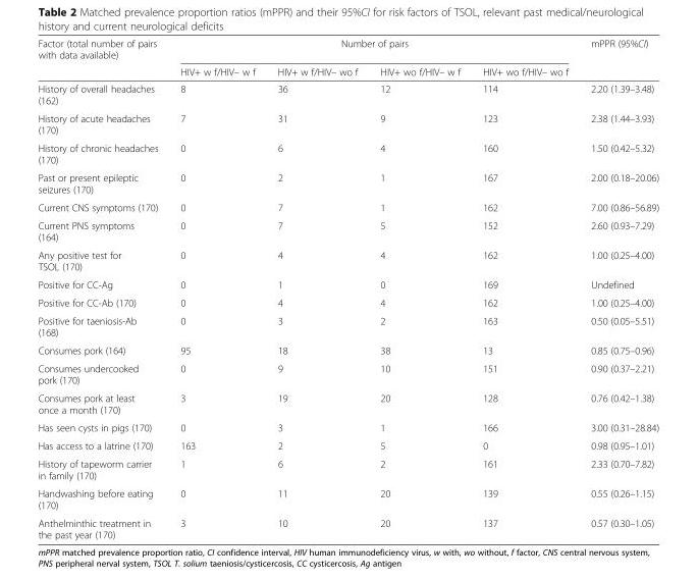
<table><thead><tr><td rowspan="2">Factor (total number of pairs with data available)</td><td colspan="4">Number of pairs</td><td rowspan="2">mPPR (95%CI)</td></tr><tr><td>HIV+ w f/HIV– w f</td><td>HIV+ w f/HIV– wo f</td><td>HIV+ wo f/HIV– w f</td><td>HIV+ wo f/HIV– wo f</td></tr></thead><tbody><tr><td>History of overall headaches (162)</td><td>8</td><td>36</td><td>12</td><td>114</td><td>2.20 (1.39–3.48)</td></tr><tr><td>History of acute headaches (170)</td><td>7</td><td>31</td><td>9</td><td>123</td><td>2.38 (1.44–3.93)</td></tr><tr><td>History of chronic headaches (170)</td><td>0</td><td>6</td><td>4</td><td>160</td><td>1.50 (0.42–5.32)</td></tr><tr><td>Past or present epileptic seizures (170)</td><td>0</td><td>2</td><td>1</td><td>167</td><td>2.00 (0.18–20.06)</td></tr><tr><td>Current CNS symptoms (170)</td><td>0</td><td>7</td><td>1</td><td>162</td><td>7.00 (0.86–56.89)</td></tr><tr><td>Current PNS symptoms (164)</td><td>0</td><td>7</td><td>5</td><td>152</td><td>2.60 (0.93–7.29)</td></tr><tr><td>Any positive test for TSOL (170)</td><td>0</td><td>4</td><td>4</td><td>162</td><td>1.00 (0.25–4.00)</td></tr><tr><td>Positive for CC-Ag</td><td>0</td><td>1</td><td>0</td><td>169</td><td>Undefined</td></tr><tr><td>Positive for CC-Ab (170)</td><td>0</td><td>4</td><td>4</td><td>162</td><td>1.00 (0.25–4.00)</td></tr><tr><td>Positive for taeniosis-Ab (168)</td><td>0</td><td>3</td><td>2</td><td>163</td><td>0.50 (0.05–5.51)</td></tr><tr><td>Consumes pork (164)</td><td>95</td><td>18</td><td>38</td><td>13</td><td>0.85 (0.75–0.96)</td></tr><tr><td>Consumes undercooked pork (170)</td><td>0</td><td>9</td><td>10</td><td>151</td><td>0.90 (0.37–2.21)</td></tr><tr><td>Consumes pork at least once a month (170)</td><td>3</td><td>19</td><td>20</td><td>128</td><td>0.76 (0.42–1.38)</td></tr><tr><td>Has seen cysts in pigs (170)</td><td>0</td><td>3</td><td>1</td><td>166</td><td>3.00 (0.31–28.84)</td></tr><tr><td>Has access to a latrine (170)</td><td>163</td><td>2</td><td>5</td><td>0</td><td>0.98 (0.95–1.01)</td></tr><tr><td>History of tapeworm carrier in family (170)</td><td>1</td><td>6</td><td>2</td><td>161</td><td>2.33 (0.70–7.82)</td></tr><tr><td>Handwashing before eating (170)</td><td>0</td><td>11</td><td>20</td><td>139</td><td>0.55 (0.26–1.15)</td></tr><tr><td>Anthelminthic treatment in the past year (170)</td><td>3</td><td>10</td><td>20</td><td>137</td><td>0.57 (0.30–1.05)</td></tr></tbody></table>